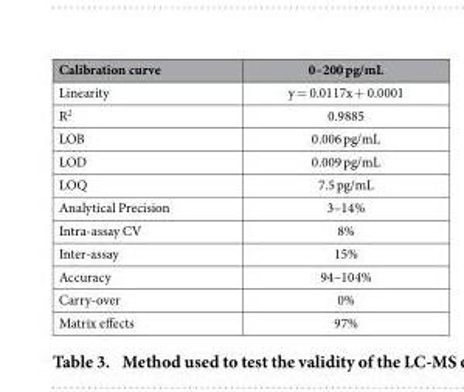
<table><thead><tr><td>Calibration curve</td><td>0–200 pg/mL</td></tr></thead><tbody><tr><td>Linearity</td><td>y = 0.0117x + 0.0001</td></tr><tr><td>R<sup>2</sup></td><td>0.9885</td></tr><tr><td>LOB</td><td>0.006 pg/mL</td></tr><tr><td>LOD</td><td>0.009 pg/mL</td></tr><tr><td>LOQ</td><td>7.5 pg/mL</td></tr><tr><td>Analytical Precision</td><td>3–14%</td></tr><tr><td>Intra-assay CV</td><td>8%</td></tr><tr><td>Inter-assay</td><td>15%</td></tr><tr><td>Accuracy</td><td>94–104%</td></tr><tr><td>Carry-over</td><td>0%</td></tr><tr><td>Matrix effects</td><td>97%</td></tr></tbody></table>